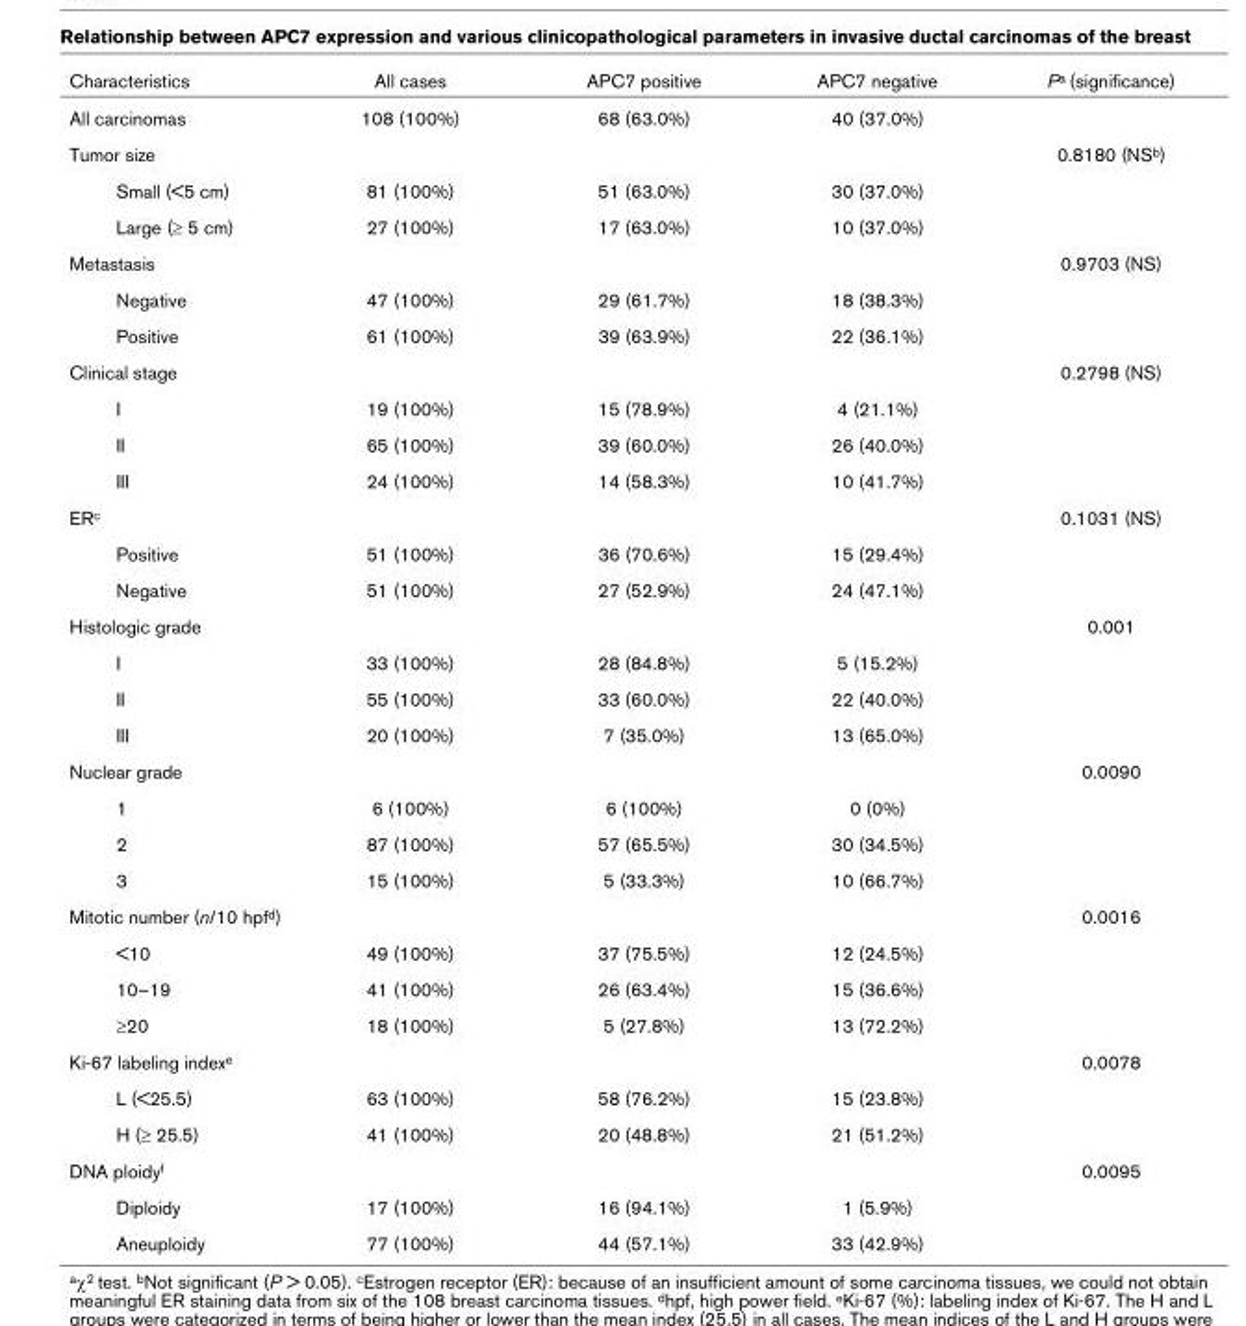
<table><thead><tr><td>Characteristics</td><td>All cases</td><td>APC7 positive</td><td>APC7 negative</td><td>Pa (significance)</td></tr></thead><tbody><tr><td>All carcinomas</td><td>108 (100%)</td><td>68 (63.0%)</td><td>40 (37.0%)</td><td></td></tr><tr><td>Tumor size</td><td></td><td></td><td></td><td>0.8180 (NSb)</td></tr><tr><td>Small (&lt;5 cm)</td><td>81 (100%)</td><td>51 (63.0%)</td><td>30 (37.0%)</td><td></td></tr><tr><td>Large (≥ 5 cm)</td><td>27 (100%)</td><td>17 (63.0%)</td><td>10 (37.0%)</td><td></td></tr><tr><td>Metastasis</td><td></td><td></td><td></td><td>0.9703 (NS)</td></tr><tr><td>Negative</td><td>47 (100%)</td><td>29 (61.7%)</td><td>18 (38.3%)</td><td></td></tr><tr><td>Positive</td><td>61 (100%)</td><td>39 (63.9%)</td><td>22 (36.1%)</td><td></td></tr><tr><td>Clinical stage</td><td></td><td></td><td></td><td>0.2798 (NS)</td></tr><tr><td>I</td><td>19 (100%)</td><td>15 (78.9%)</td><td>4 (21.1%)</td><td></td></tr><tr><td>II</td><td>65 (100%)</td><td>39 (60.0%)</td><td>26 (40.0%)</td><td></td></tr><tr><td>III</td><td>24 (100%)</td><td>14 (58.3%)</td><td>10 (41.7%)</td><td></td></tr><tr><td>ERc</td><td></td><td></td><td></td><td>0.1031 (NS)</td></tr><tr><td>Positive</td><td>51 (100%)</td><td>36 (70.6%)</td><td>15 (29.4%)</td><td></td></tr><tr><td>Negative</td><td>51 (100%)</td><td>27 (52.9%)</td><td>24 (47.1%)</td><td></td></tr><tr><td>Histologic grade</td><td></td><td></td><td></td><td>0.001</td></tr><tr><td>I</td><td>33 (100%)</td><td>28 (84.8%)</td><td>5 (15.2%)</td><td></td></tr><tr><td>II</td><td>55 (100%)</td><td>33 (60.0%)</td><td>22 (40.0%)</td><td></td></tr><tr><td>III</td><td>20 (100%)</td><td>7 (35.0%)</td><td>13 (65.0%)</td><td></td></tr><tr><td>Nuclear grade</td><td></td><td></td><td></td><td>0.0090</td></tr><tr><td>1</td><td>6 (100%)</td><td>6 (100%)</td><td>0 (0%)</td><td></td></tr><tr><td>2</td><td>87 (100%)</td><td>57 (65.5%)</td><td>30 (34.5%)</td><td></td></tr><tr><td>3</td><td>15 (100%)</td><td>5 (33.3%)</td><td>10 (66.7%)</td><td></td></tr><tr><td>Mitotic number (n/10 hpfd)</td><td></td><td></td><td></td><td>0.0016</td></tr><tr><td>&lt;10</td><td>49 (100%)</td><td>37 (75.5%)</td><td>12 (24.5%)</td><td></td></tr><tr><td>10–19</td><td>41 (100%)</td><td>26 (63.4%)</td><td>15 (36.6%)</td><td></td></tr><tr><td>≥20</td><td>18 (100%)</td><td>5 (27.8%)</td><td>13 (72.2%)</td><td></td></tr><tr><td>Ki-67 labeling indexe</td><td></td><td></td><td></td><td>0.0078</td></tr><tr><td>L (&lt;25.5)</td><td>63 (100%)</td><td>58 (76.2%)</td><td>15 (23.8%)</td><td></td></tr><tr><td>H (≥ 25.5)</td><td>41 (100%)</td><td>20 (48.8%)</td><td>21 (51.2%)</td><td></td></tr><tr><td>DNA ploidyf</td><td></td><td></td><td></td><td>0.0095</td></tr><tr><td>Diploidy</td><td>17 (100%)</td><td>16 (94.1%)</td><td>1 (5.9%)</td><td></td></tr><tr><td>Aneuploidy</td><td>77 (100%)</td><td>44 (57.1%)</td><td>33 (42.9%)</td><td></td></tr></tbody></table>